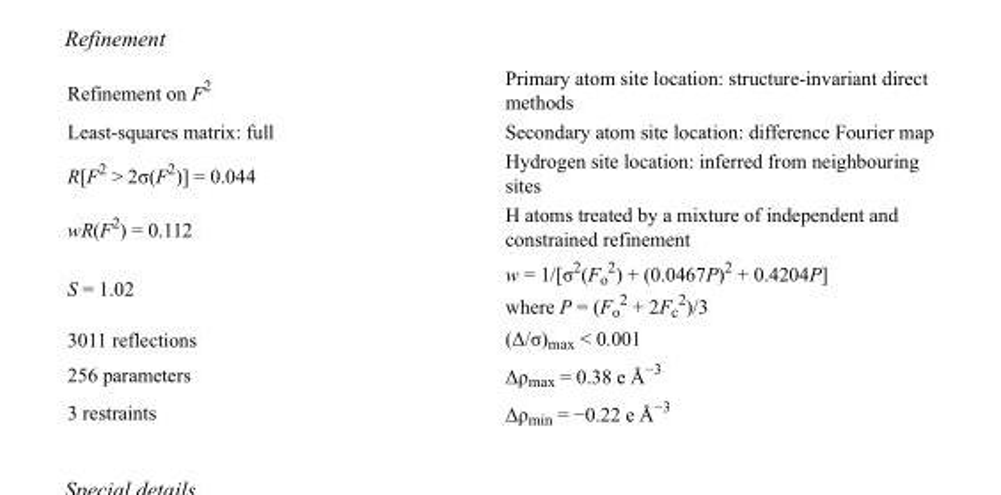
<table><tbody><tr><td>Refinement on F<sup>2</sup></td><td>Primary atom site location: structure-invariant direct methods</td></tr><tr><td>Least-squares matrix: full</td><td>Secondary atom site location: difference Fourier map</td></tr><tr><td>R[F<sup>2</sup> &gt; 2σ(F<sup>2</sup>)] = 0.044</td><td>Hydrogen site location: inferred from neighbouring sites</td></tr><tr><td>wR(F<sup>2</sup>) = 0.112</td><td>H atoms treated by a mixture of independent and constrained refinement</td></tr><tr><td>S = 1.02</td><td>w = 1/[σ<sup>2</sup>(F<sub>o</sub> <sup>2</sup>) + (0.0467P)<sup>2</sup> + 0.4204P] where P = (F<sub>o</sub> <sup>2</sup> + 2F<sub>c</sub> <sup>2</sup>)/3</td></tr><tr><td>3011 reflections</td><td>(Δ/σ)<sub>max</sub> &lt; 0.001</td></tr><tr><td>256 parameters</td><td>Δρ<sub>max</sub> = 0.38 e Å<sup>−3</sup></td></tr><tr><td>3 restraints</td><td>Δρ<sub>min</sub> = −0.22 e Å<sup>−3</sup></td></tr></tbody></table>